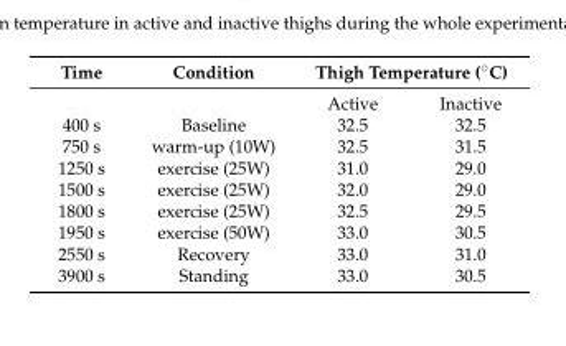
<table><thead><tr><td rowspan="2">Time</td><td rowspan="2">Condition</td><td colspan="2">Thigh Temperature (˝C)</td></tr><tr><td>Active</td><td>Inactive</td></tr></thead><tbody><tr><td>400 s</td><td>Baseline</td><td>32.5</td><td>32.5</td></tr><tr><td>750 s</td><td>warm-up (10W)</td><td>32.5</td><td>31.5</td></tr><tr><td>1250 s</td><td>exercise (25W)</td><td>31.0</td><td>29.0</td></tr><tr><td>1500 s</td><td>exercise (25W)</td><td>32.0</td><td>29.0</td></tr><tr><td>1800 s</td><td>exercise (25W)</td><td>32.5</td><td>29.5</td></tr><tr><td>1950 s</td><td>exercise (50W)</td><td>33.0</td><td>30.5</td></tr><tr><td>2550 s</td><td>Recovery</td><td>33.0</td><td>31.0</td></tr><tr><td>3900 s</td><td>Standing</td><td>33.0</td><td>30.5</td></tr></tbody></table>